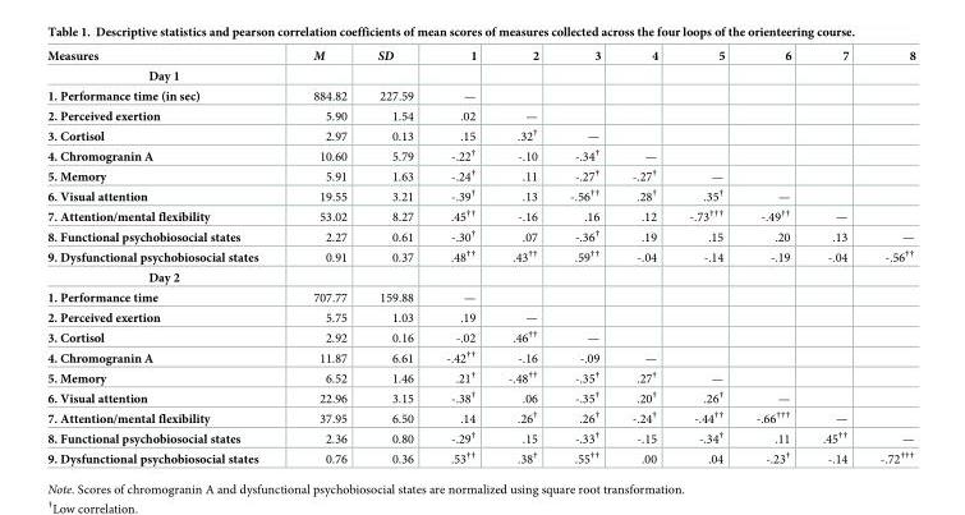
<table><thead><tr><td>Measures</td><td>M</td><td>SD</td><td>1</td><td>2</td><td>3</td><td>4</td><td>5</td><td>6</td><td>7</td><td>8</td></tr></thead><tbody><tr><td colspan="11">Day 1</td></tr><tr><td>1. Performance time (in sec)</td><td>884.82</td><td>227.59</td><td>—</td><td></td><td></td><td></td><td></td><td></td><td></td><td></td></tr><tr><td>2. Perceived exertion</td><td>5.90</td><td>1.54</td><td>.02</td><td>—</td><td></td><td></td><td></td><td></td><td></td><td></td></tr><tr><td>3. Cortisol</td><td>2.97</td><td>0.13</td><td>.15</td><td>.32<sup>†</sup></td><td>—</td><td></td><td></td><td></td><td></td><td></td></tr><tr><td>4. Chromogranin A</td><td>10.60</td><td>5.79</td><td>-.22<sup>†</sup></td><td>-.10</td><td>-.34<sup>†</sup></td><td>—</td><td></td><td></td><td></td><td></td></tr><tr><td>5. Memory</td><td>5.91</td><td>1.63</td><td>-.24<sup>†</sup></td><td>.11</td><td>-.27<sup>†</sup></td><td>-.27<sup>†</sup></td><td>—</td><td></td><td></td><td></td></tr><tr><td>6. Visual attention</td><td>19.55</td><td>3.21</td><td>-.39<sup>†</sup></td><td>.13</td><td>-.56<sup>††</sup></td><td>.28<sup>†</sup></td><td>.35<sup>†</sup></td><td>—</td><td></td><td></td></tr><tr><td>7. Attention/mental flexibility</td><td>53.02</td><td>8.27</td><td>.45<sup>††</sup></td><td>-.16</td><td>.16</td><td>.12</td><td>-.73<sup>†††</sup></td><td>-.49<sup>††</sup></td><td>—</td><td></td></tr><tr><td>8. Functional psychobiosocial states</td><td>2.27</td><td>0.61</td><td>-.30<sup>†</sup></td><td>.07</td><td>-.36<sup>†</sup></td><td>.19</td><td>.15</td><td>.20</td><td>.13</td><td>—</td></tr><tr><td>9. Dysfunctional psychobiosocial states</td><td>0.91</td><td>0.37</td><td>.48<sup>††</sup></td><td>.43<sup>††</sup></td><td>.59<sup>††</sup></td><td>-.04</td><td>-.14</td><td>-.19</td><td>-.04</td><td>-.56<sup>††</sup></td></tr><tr><td colspan="11">Day 2</td></tr><tr><td>1. Performance time</td><td>707.77</td><td>159.88</td><td>—</td><td></td><td></td><td></td><td></td><td></td><td></td><td></td></tr><tr><td>2. Perceived exertion</td><td>5.75</td><td>1.03</td><td>.19</td><td>—</td><td></td><td></td><td></td><td></td><td></td><td></td></tr><tr><td>3. Cortisol</td><td>2.92</td><td>0.16</td><td>-.02</td><td>.46<sup>††</sup></td><td>—</td><td></td><td></td><td></td><td></td><td></td></tr><tr><td>4. Chromogranin A</td><td>11.87</td><td>6.61</td><td>-.42<sup>††</sup></td><td>-.16</td><td>-.09</td><td>—</td><td></td><td></td><td></td><td></td></tr><tr><td>5. Memory</td><td>6.52</td><td>1.46</td><td>.21<sup>†</sup></td><td>-.48<sup>††</sup></td><td>-.35<sup>†</sup></td><td>.27<sup>†</sup></td><td>—</td><td></td><td></td><td></td></tr><tr><td>6. Visual attention</td><td>22.96</td><td>3.15</td><td>-.38<sup>†</sup></td><td>.06</td><td>-.35<sup>†</sup></td><td>.20<sup>†</sup></td><td>.26<sup>†</sup></td><td>—</td><td></td><td></td></tr><tr><td>7. Attention/mental flexibility</td><td>37.95</td><td>6.50</td><td>.14</td><td>.26<sup>†</sup></td><td>.26<sup>†</sup></td><td>-.24<sup>†</sup></td><td>-.44<sup>††</sup></td><td>-.66<sup>†††</sup></td><td>—</td><td></td></tr><tr><td>8. Functional psychobiosocial states</td><td>2.36</td><td>0.80</td><td>-.29<sup>†</sup></td><td>.15</td><td>-.33<sup>†</sup></td><td>-.15</td><td>-.34<sup>†</sup></td><td>.11</td><td>.45<sup>††</sup></td><td>—</td></tr><tr><td>9. Dysfunctional psychobiosocial states</td><td>0.76</td><td>0.36</td><td>.53<sup>††</sup></td><td>.38<sup>†</sup></td><td>.55<sup>††</sup></td><td>.00</td><td>.04</td><td>-.23<sup>†</sup></td><td>-.14</td><td>-.72<sup>†††</sup></td></tr></tbody></table>